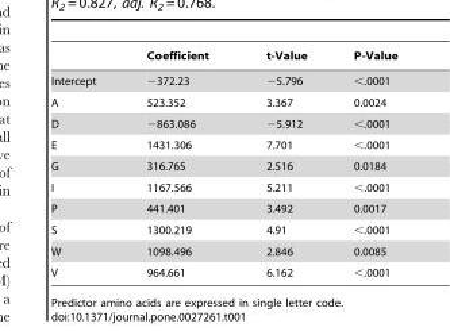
<table><thead><tr><td></td><td>Coefficient</td><td>t-Value</td><td>P-Value</td></tr></thead><tbody><tr><td>Intercept</td><td>−372.23</td><td>−5.796</td><td>&lt;.0001</td></tr><tr><td>A</td><td>523.352</td><td>3.367</td><td>0.0024</td></tr><tr><td>D</td><td>−863.086</td><td>−5.912</td><td>&lt;.0001</td></tr><tr><td>E</td><td>1431.306</td><td>7.701</td><td>&lt;.0001</td></tr><tr><td>G</td><td>316.765</td><td>2.516</td><td>0.0184</td></tr><tr><td>I</td><td>1167.566</td><td>5.211</td><td>&lt;.0001</td></tr><tr><td>P</td><td>441.401</td><td>3.492</td><td>0.0017</td></tr><tr><td>S</td><td>1300.219</td><td>4.91</td><td>&lt;.0001</td></tr><tr><td>W</td><td>1098.496</td><td>2.846</td><td>0.0085</td></tr><tr><td>V</td><td>964.661</td><td>6.162</td><td>&lt;.0001</td></tr></tbody></table>